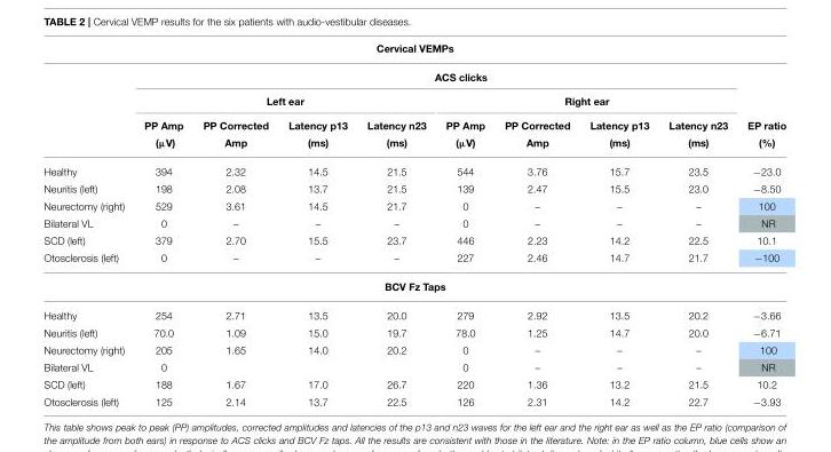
<table><thead><tr><td colspan="10">Cervical VEMPs</td></tr><tr><td rowspan="3"></td><td colspan="9">ACS clicks</td></tr><tr><td colspan="4">Left ear</td><td colspan="4">Right ear</td><td rowspan="2">EP ratio</td></tr><tr><td>PP Amp</td><td>PP Corrected</td><td>Latency p13</td><td>Latency n23</td><td>PP Amp</td><td>PP Corrected</td><td>Latency p13</td><td>Latency n23</td></tr></thead><tbody><tr><td></td><td>(µV)</td><td>Amp</td><td>(ms)</td><td>(ms)</td><td>(µV)</td><td>Amp</td><td>(ms)</td><td>(ms)</td><td>(%)</td></tr><tr><td>Healthy</td><td>394</td><td>2.32</td><td>14.5</td><td>21.5</td><td>544</td><td>3.76</td><td>15.7</td><td>23.5</td><td>−23.0</td></tr><tr><td>Neuritis (left)</td><td>198</td><td>2.08</td><td>13.7</td><td>21.5</td><td>139</td><td>2.47</td><td>15.5</td><td>23.0</td><td>−8.50</td></tr><tr><td>Neurectomy (right)</td><td>529</td><td>3.61</td><td>14.5</td><td>21.7</td><td>0</td><td>–</td><td>–</td><td>–</td><td>100</td></tr><tr><td>Bilateral VL</td><td>0</td><td>–</td><td>–</td><td>–</td><td>0</td><td>–</td><td>–</td><td>–</td><td>NR</td></tr><tr><td>SCD (left)</td><td>379</td><td>2.70</td><td>15.5</td><td>23.7</td><td>446</td><td>2.23</td><td>14.2</td><td>22.5</td><td>10.1</td></tr><tr><td>Otosclerosis (left)</td><td>0</td><td>–</td><td>–</td><td>–</td><td>227</td><td>2.46</td><td>14.7</td><td>21.7</td><td>−100</td></tr><tr><td colspan="10">BCV Fz Taps</td></tr><tr><td>Healthy</td><td>254</td><td>2.71</td><td>13.5</td><td>20.0</td><td>279</td><td>2.92</td><td>13.5</td><td>20.2</td><td>−3.66</td></tr><tr><td>Neuritis (left)</td><td>70.0</td><td>1.09</td><td>15.0</td><td>19.7</td><td>78.0</td><td>1.25</td><td>14.7</td><td>20.0</td><td>−6.71</td></tr><tr><td>Neurectomy (right)</td><td>205</td><td>1.65</td><td>14.0</td><td>20.2</td><td>0</td><td>–</td><td>–</td><td>–</td><td>100</td></tr><tr><td>Bilateral VL</td><td>0</td><td></td><td></td><td></td><td>0</td><td>–</td><td>–</td><td>–</td><td>NR</td></tr><tr><td>SCD (left)</td><td>188</td><td>1.67</td><td>17.0</td><td>26.7</td><td>220</td><td>1.36</td><td>13.2</td><td>21.5</td><td>10.2</td></tr><tr><td>Otosclerosis (left)</td><td>125</td><td>2.14</td><td>13.7</td><td>22.5</td><td>126</td><td>2.31</td><td>14.2</td><td>22.7</td><td>−3.93</td></tr></tbody></table>